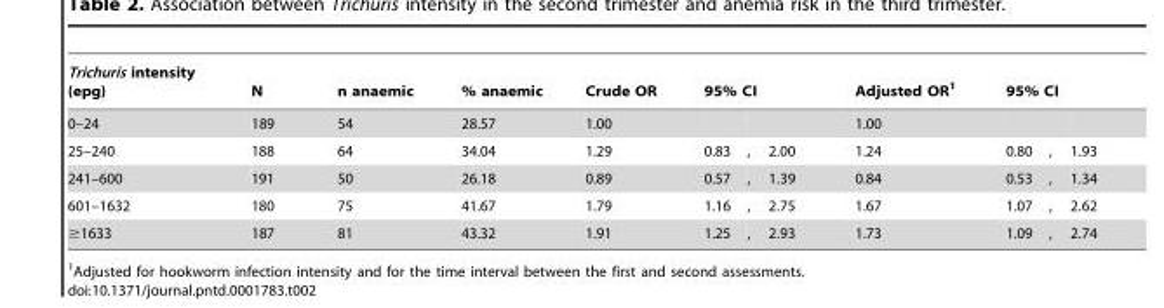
<table><thead><tr><td rowspan="2">Trichuris intensity (epg) 0–24</td><td rowspan="2">N 189</td><td rowspan="2">n anaemic 54</td><td rowspan="2">% anaemic 28.57</td><td rowspan="2">Crude OR 1.00</td><td colspan="3">95% CI</td><td rowspan="2">Adjusted OR<sup>1</sup> 1.00</td><td colspan="3">95% CI</td></tr><tr><td></td><td></td><td></td><td></td><td></td><td></td></tr></thead><tbody><tr><td>25–240</td><td>188</td><td>64</td><td>34.04</td><td>1.29</td><td>0.83</td><td>,</td><td>2.00</td><td>1.24</td><td>0.80</td><td>,</td><td>1.93</td></tr><tr><td>241–600</td><td>191</td><td>50</td><td>26.18</td><td>0.89</td><td>0.57</td><td>,</td><td>1.39</td><td>0.84</td><td>0.53</td><td>,</td><td>1.34</td></tr><tr><td>601–1632</td><td>180</td><td>75</td><td>41.67</td><td>1.79</td><td>1.16</td><td>,</td><td>2.75</td><td>1.67</td><td>1.07</td><td>,</td><td>2.62</td></tr><tr><td>≥1633</td><td>187</td><td>81</td><td>43.32</td><td>1.91</td><td>1.25</td><td>,</td><td>2.93</td><td>1.73</td><td>1.09</td><td>,</td><td>2.74</td></tr></tbody></table>